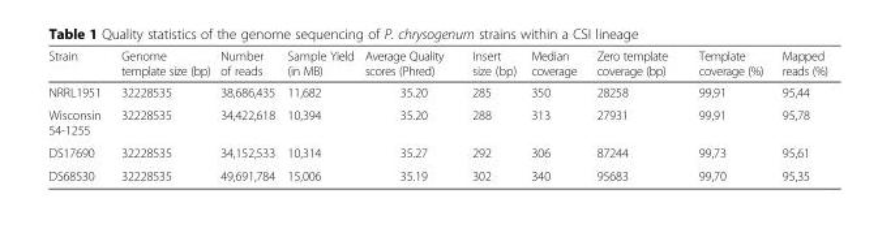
<table><thead><tr><td>Strain</td><td>Genome template size (bp)</td><td>Number of reads</td><td>Sample Yield (in MB)</td><td>Average Quality scores (Phred)</td><td>Insert size (bp)</td><td>Median coverage</td><td>Zero template coverage (bp)</td><td>Template coverage (%)</td><td>Mapped reads (%)</td></tr></thead><tbody><tr><td>NRRL1951</td><td>32228535</td><td>38,686,435</td><td>11,682</td><td>35.20</td><td>285</td><td>350</td><td>28258</td><td>99,91</td><td>95,44</td></tr><tr><td>Wisconsin 54-1255</td><td>32228535</td><td>34,422,618</td><td>10,394</td><td>35.20</td><td>288</td><td>313</td><td>27931</td><td>99,91</td><td>95,78</td></tr><tr><td>DS17690</td><td>32228535</td><td>34,152,533</td><td>10,314</td><td>35.27</td><td>292</td><td>306</td><td>87244</td><td>99,73</td><td>95,61</td></tr><tr><td>DS68530</td><td>32228535</td><td>49,691,784</td><td>15,006</td><td>35.19</td><td>302</td><td>340</td><td>95683</td><td>99,70</td><td>95,35</td></tr></tbody></table>